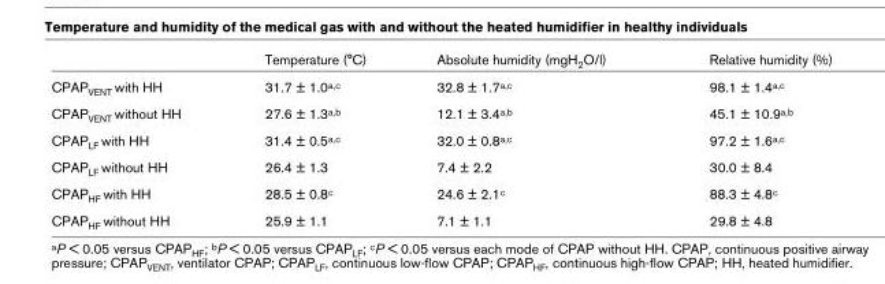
<table><thead><tr><td></td><td>Temperature (°C)</td><td>Absolute humidity (mgH<sub>2</sub>O/l)</td><td>Relative humidity (%)</td></tr></thead><tbody><tr><td>CPAP<sub>VENT</sub> with HH</td><td>31.7 ± 1.0<sup>a,c</sup></td><td>32.8 ± 1.7<sup>a,c</sup></td><td>98.1 ± 1.4<sup>a,c</sup></td></tr><tr><td>CPAP<sub>VENT</sub> without HH</td><td>27.6 ± 1.3<sup>a,b</sup></td><td>12.1 ± 3.4<sup>a,b</sup></td><td>45.1 ± 10.9<sup>a,b</sup></td></tr><tr><td>CPAP<sub>LF</sub> with HH</td><td>31.4 ± 0.5<sup>a,c</sup></td><td>32.0 ± 0.8<sup>a,c</sup></td><td>97.2 ± 1.6<sup>a,c</sup></td></tr><tr><td>CPAP<sub>LF</sub> without HH</td><td>26.4 ± 1.3</td><td>7.4 ± 2.2</td><td>30.0 ± 8.4</td></tr><tr><td>CPAP<sub>HF</sub> with HH</td><td>28.5 ± 0.8<sup>c</sup></td><td>24.6 ± 2.1<sup>c</sup></td><td>88.3 ± 4.8<sup>c</sup></td></tr><tr><td>CPAP<sub>HF</sub> without HH</td><td>25.9 ± 1.1</td><td>7.1 ± 1.1</td><td>29.8 ± 4.8</td></tr></tbody></table>